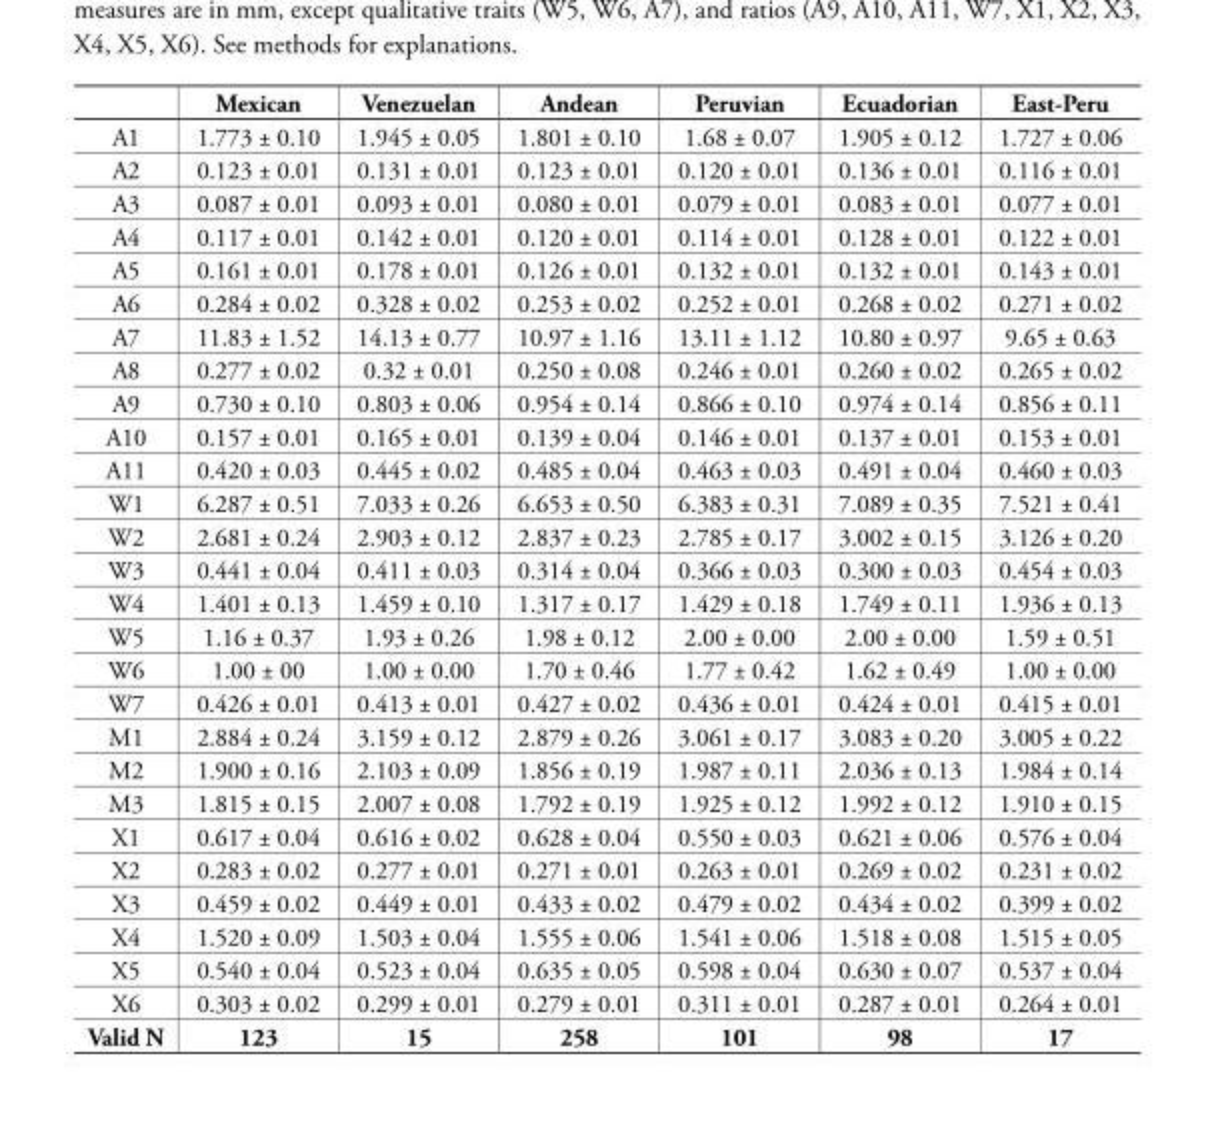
<table><thead><tr><td></td><td>Mexican</td><td>Venezuelan</td><td>Andean</td><td>Peruvian</td><td>Ecuadorian</td><td>East-Peru</td></tr></thead><tbody><tr><td>A1</td><td>1.773 ± 0.10</td><td>1.945 ± 0.05</td><td>1.801 ± 0.10</td><td>1.68 ± 0.07</td><td>1.905 ± 0.12</td><td>1.727 ± 0.06</td></tr><tr><td>A2</td><td>0.123 ± 0.01</td><td>0.131 ± 0.01</td><td>0.123 ± 0.01</td><td>0.120 ± 0.01</td><td>0.136 ± 0.01</td><td>0.116 ± 0.01</td></tr><tr><td>A3</td><td>0.087 ± 0.01</td><td>0.093 ± 0.01</td><td>0.080 ± 0.01</td><td>0.079 ± 0.01</td><td>0.083 ± 0.01</td><td>0.077 ± 0.01</td></tr><tr><td>A4</td><td>0.117 ± 0.01</td><td>0.142 ± 0.01</td><td>0.120 ± 0.01</td><td>0.114 ± 0.01</td><td>0.128 ± 0.01</td><td>0.122 ± 0.01</td></tr><tr><td>A5</td><td>0.161 ± 0.01</td><td>0.178 ± 0.01</td><td>0.126 ± 0.01</td><td>0.132 ± 0.01</td><td>0.132 ± 0.01</td><td>0.143 ± 0.01</td></tr><tr><td>A6</td><td>0.284 ± 0.02</td><td>0.328 ± 0.02</td><td>0.253 ± 0.02</td><td>0.252 ± 0.01</td><td>0.268 ± 0.02</td><td>0.271 ± 0.02</td></tr><tr><td>A7</td><td>11.83 ± 1.52</td><td>14.13 ± 0.77</td><td>10.97 ± 1.16</td><td>13.11 ± 1.12</td><td>10.80 ± 0.97</td><td>9.65 ± 0.63</td></tr><tr><td>A8</td><td>0.277 ± 0.02</td><td>0.32 ± 0.01</td><td>0.250 ± 0.08</td><td>0.246 ± 0.01</td><td>0.260 ± 0.02</td><td>0.265 ± 0.02</td></tr><tr><td>A9</td><td>0.730 ± 0.10</td><td>0.803 ± 0.06</td><td>0.954 ± 0.14</td><td>0.866 ± 0.10</td><td>0.974 ± 0.14</td><td>0.856 ± 0.11</td></tr><tr><td>A10</td><td>0.157 ± 0.01</td><td>0.165 ± 0.01</td><td>0.139 ± 0.04</td><td>0.146 ± 0.01</td><td>0.137 ± 0.01</td><td>0.153 ± 0.01</td></tr><tr><td>A11</td><td>0.420 ± 0.03</td><td>0.445 ± 0.02</td><td>0.485 ± 0.04</td><td>0.463 ± 0.03</td><td>0.491 ± 0.04</td><td>0.460 ± 0.03</td></tr><tr><td>W1</td><td>6.287 ± 0.51</td><td>7.033 ± 0.26</td><td>6.653 ± 0.50</td><td>6.383 ± 0.31</td><td>7.089 ± 0.35</td><td>7.521 ± 0.41</td></tr><tr><td>W2</td><td>2.681 ± 0.24</td><td>2.903 ± 0.12</td><td>2.837 ± 0.23</td><td>2.785 ± 0.17</td><td>3.002 ± 0.15</td><td>3.126 ± 0.20</td></tr><tr><td>W3</td><td>0.441 ± 0.04</td><td>0.411 ± 0.03</td><td>0.314 ± 0.04</td><td>0.366 ± 0.03</td><td>0.300 ± 0.03</td><td>0.454 ± 0.03</td></tr><tr><td>W4</td><td>1.401 ± 0.13</td><td>1.459 ± 0.10</td><td>1.317 ± 0.17</td><td>1.429 ± 0.18</td><td>1.749 ± 0.11</td><td>1.936 ± 0.13</td></tr><tr><td>W5</td><td>1.16 ± 0.37</td><td>1.93 ± 0.26</td><td>1.98 ± 0.12</td><td>2.00 ± 0.00</td><td>2.00 ± 0.00</td><td>1.59 ± 0.51</td></tr><tr><td>W6</td><td>1.00 ± 00</td><td>1.00 ± 0.00</td><td>1.70 ± 0.46</td><td>1.77 ± 0.42</td><td>1.62 ± 0.49</td><td>1.00 ± 0.00</td></tr><tr><td>W7</td><td>0.426 ± 0.01</td><td>0.413 ± 0.01</td><td>0.427 ± 0.02</td><td>0.436 ± 0.01</td><td>0.424 ± 0.01</td><td>0.415 ± 0.01</td></tr><tr><td>M1</td><td>2.884 ± 0.24</td><td>3.159 ± 0.12</td><td>2.879 ± 0.26</td><td>3.061 ± 0.17</td><td>3.083 ± 0.20</td><td>3.005 ± 0.22</td></tr><tr><td>M2</td><td>1.900 ± 0.16</td><td>2.103 ± 0.09</td><td>1.856 ± 0.19</td><td>1.987 ± 0.11</td><td>2.036 ± 0.13</td><td>1.984 ± 0.14</td></tr><tr><td>M3</td><td>1.815 ± 0.15</td><td>2.007 ± 0.08</td><td>1.792 ± 0.19</td><td>1.925 ± 0.12</td><td>1.992 ± 0.12</td><td>1.910 ± 0.15</td></tr><tr><td>X1</td><td>0.617 ± 0.04</td><td>0.616 ± 0.02</td><td>0.628 ± 0.04</td><td>0.550 ± 0.03</td><td>0.621 ± 0.06</td><td>0.576 ± 0.04</td></tr><tr><td>X2</td><td>0.283 ± 0.02</td><td>0.277 ± 0.01</td><td>0.271 ± 0.01</td><td>0.263 ± 0.01</td><td>0.269 ± 0.02</td><td>0.231 ± 0.02</td></tr><tr><td>X3</td><td>0.459 ± 0.02</td><td>0.449 ± 0.01</td><td>0.433 ± 0.02</td><td>0.479 ± 0.02</td><td>0.434 ± 0.02</td><td>0.399 ± 0.02</td></tr><tr><td>X4</td><td>1.520 ± 0.09</td><td>1.503 ± 0.04</td><td>1.555 ± 0.06</td><td>1.541 ± 0.06</td><td>1.518 ± 0.08</td><td>1.515 ± 0.05</td></tr><tr><td>X5</td><td>0.540 ± 0.04</td><td>0.523 ± 0.04</td><td>0.635 ± 0.05</td><td>0.598 ± 0.04</td><td>0.630 ± 0.07</td><td>0.537 ± 0.04</td></tr><tr><td>X6</td><td>0.303 ± 0.02</td><td>0.299 ± 0.01</td><td>0.279 ± 0.01</td><td>0.311 ± 0.01</td><td>0.287 ± 0.01</td><td>0.264 ± 0.01</td></tr><tr><td>Valid N</td><td>123</td><td>15</td><td>258</td><td>101</td><td>98</td><td>17</td></tr></tbody></table>